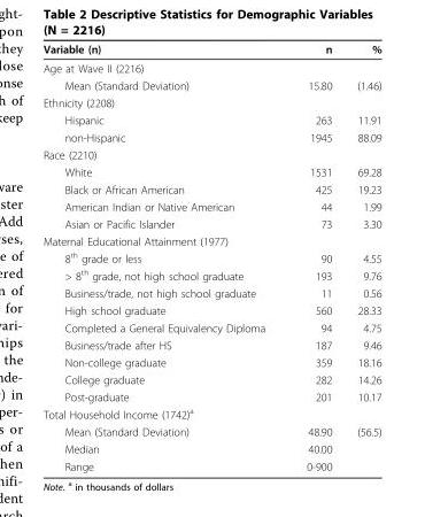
<table><thead><tr><td>Variable (n)</td><td>n</td><td>%</td></tr></thead><tbody><tr><td colspan="3">Age at Wave II (2216)</td></tr><tr><td>Mean (Standard Deviation)</td><td>15.80</td><td>(1.46)</td></tr><tr><td colspan="3">Ethnicity (2208)</td></tr><tr><td>Hispanic</td><td>263</td><td>11.91</td></tr><tr><td>non-Hispanic</td><td>1945</td><td>88.09</td></tr><tr><td colspan="3">Race (2210)</td></tr><tr><td>White</td><td>1531</td><td>69.28</td></tr><tr><td>Black or African American</td><td>425</td><td>19.23</td></tr><tr><td>American Indian or Native American</td><td>44</td><td>1.99</td></tr><tr><td>Asian or Pacific Islander</td><td>73</td><td>3.30</td></tr><tr><td colspan="3">Maternal Educational Attainment (1977)</td></tr><tr><td>8<sup>th</sup> grade or less</td><td>90</td><td>4.55</td></tr><tr><td>&gt; 8<sup>th</sup> grade, not high school graduate</td><td>193</td><td>9.76</td></tr><tr><td>Business/trade, not high school graduate</td><td>11</td><td>0.56</td></tr><tr><td>High school graduate</td><td>560</td><td>28.33</td></tr><tr><td>Completed a General Equivalency Diploma</td><td>94</td><td>4.75</td></tr><tr><td>Business/trade after HS</td><td>187</td><td>9.46</td></tr><tr><td>Non-college graduate</td><td>359</td><td>18.16</td></tr><tr><td>College graduate</td><td>282</td><td>14.26</td></tr><tr><td>Post-graduate</td><td>201</td><td>10.17</td></tr><tr><td colspan="3">Total Household Income (1742)<sup>a</sup></td></tr><tr><td>Mean (Standard Deviation)</td><td>48.90</td><td>(56.5)</td></tr><tr><td>Median</td><td>40.00</td><td></td></tr><tr><td>Range</td><td>0-900</td><td></td></tr></tbody></table>